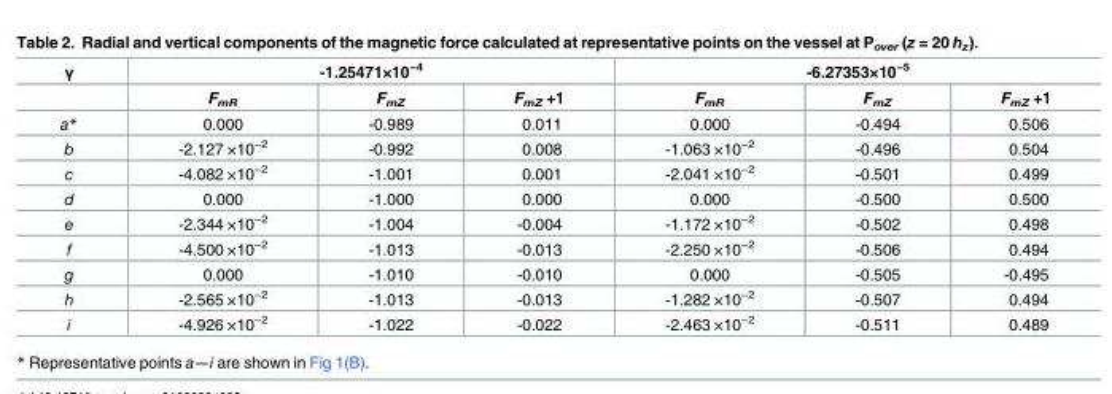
<table><thead><tr><td rowspan="2">γ</td><td colspan="3">-1.25471×10<sup>−4</sup></td><td colspan="3">-6.27353×10<sup>−5</sup></td></tr><tr><td>F<sub>mR</sub></td><td>F<sub>mZ</sub></td><td>F<sub>mZ</sub> +1</td><td>F<sub>mR</sub></td><td>F<sub>mZ</sub></td><td>F<sub>mZ</sub> +1</td></tr></thead><tbody><tr><td>a*</td><td>0.000</td><td>-0.989</td><td>0.011</td><td>0.000</td><td>-0.494</td><td>0.506</td></tr><tr><td>b</td><td>-2.127 ×10<sup>−2</sup></td><td>-0.992</td><td>0.008</td><td>-1.063 ×10<sup>−2</sup></td><td>-0.496</td><td>0.504</td></tr><tr><td>c</td><td>-4.082 ×10<sup>−2</sup></td><td>-1.001</td><td>0.001</td><td>-2.041 ×10<sup>−2</sup></td><td>-0.501</td><td>0.499</td></tr><tr><td>d</td><td>0.000</td><td>-1.000</td><td>0.000</td><td>0.000</td><td>-0.500</td><td>0.500</td></tr><tr><td>e</td><td>-2.344 ×10<sup>−2</sup></td><td>-1.004</td><td>-0.004</td><td>-1.172 ×10<sup>−2</sup></td><td>-0.502</td><td>0.498</td></tr><tr><td>f</td><td>-4.500 ×10<sup>−2</sup></td><td>-1.013</td><td>-0.013</td><td>-2.250 ×10<sup>−2</sup></td><td>-0.506</td><td>0.494</td></tr><tr><td>g</td><td>0.000</td><td>-1.010</td><td>-0.010</td><td>0.000</td><td>-0.505</td><td>-0.495</td></tr><tr><td>h</td><td>-2.565 ×10<sup>−2</sup></td><td>-1.013</td><td>-0.013</td><td>-1.282 ×10<sup>−2</sup></td><td>-0.507</td><td>0.494</td></tr><tr><td>i</td><td>-4.926 ×10<sup>−2</sup></td><td>-1.022</td><td>-0.022</td><td>-2.463 ×10<sup>−2</sup></td><td>-0.511</td><td>0.489</td></tr></tbody></table>